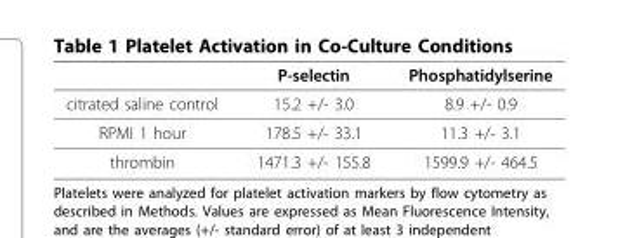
<table><thead><tr><td></td><td>P-selectin</td><td>Phosphatidylserine</td></tr></thead><tbody><tr><td>citrated saline control</td><td>15.2 +/- 3.0</td><td>8.9 +/- 0.9</td></tr><tr><td>RPMI 1 hour</td><td>178.5 +/- 33.1</td><td>11.3 +/- 3.1</td></tr><tr><td>thrombin</td><td>1471.3 +/- 155.8</td><td>1599.9 +/- 464.5</td></tr></tbody></table>